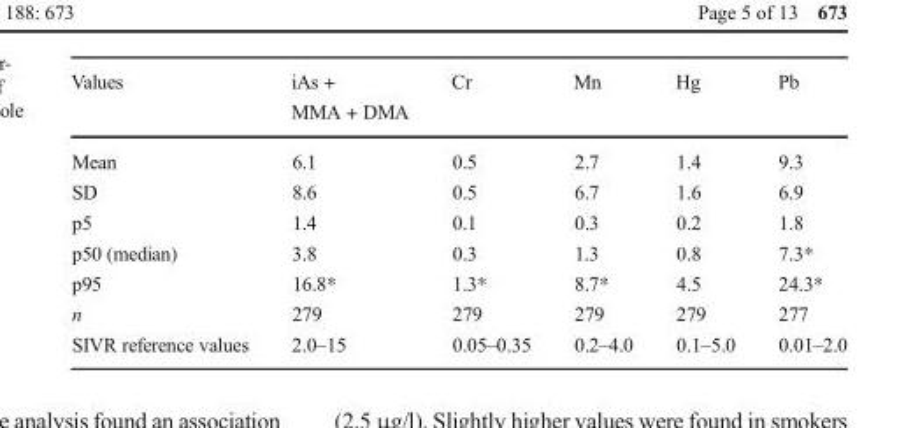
<table><thead><tr><td>Values</td><td>iAs + MMA + DMA</td><td>Cr</td><td>Mn</td><td>Hg</td><td>Pb</td></tr></thead><tbody><tr><td>Mean</td><td>6.1</td><td>0.5</td><td>2.7</td><td>1.4</td><td>9.3</td></tr><tr><td>SD</td><td>8.6</td><td>0.5</td><td>6.7</td><td>1.6</td><td>6.9</td></tr><tr><td>p5</td><td>1.4</td><td>0.1</td><td>0.3</td><td>0.2</td><td>1.8</td></tr><tr><td>p50 (median)</td><td>3.8</td><td>0.3</td><td>1.3</td><td>0.8</td><td>7.3*</td></tr><tr><td>p95</td><td>16.8*</td><td>1.3*</td><td>8.7*</td><td>4.5</td><td>24.3*</td></tr><tr><td>n</td><td>279</td><td>279</td><td>279</td><td>279</td><td>277</td></tr><tr><td>SIVR reference values</td><td>2.0–15</td><td>0.05–0.35</td><td>0.2–4.0</td><td>0.1–5.0</td><td>0.01–2.0</td></tr></tbody></table>